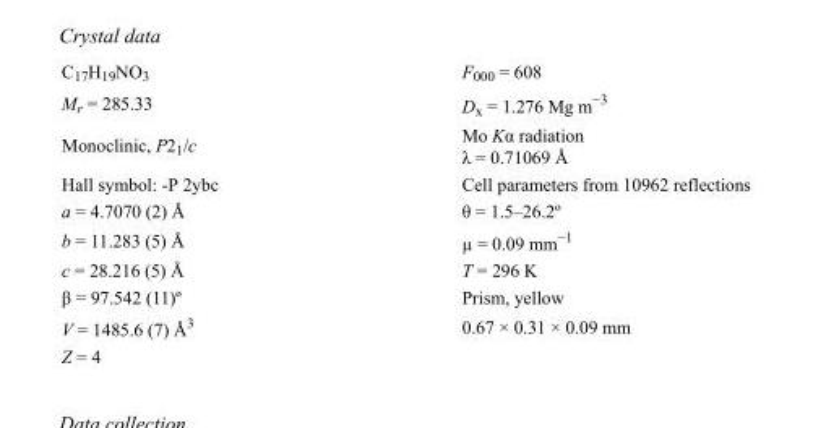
<table><tbody><tr><td>C<sub>17</sub>H<sub>19</sub>NO<sub>3</sub></td><td>F000 = 608</td></tr><tr><td>M<sub>r</sub> = 285.33</td><td>D<sub>x</sub> = 1.276 Mg m<sup>−3</sup></td></tr><tr><td>Monoclinic, P2<sub>1</sub>/c</td><td>Mo Kα radiation λ = 0.71069 Å</td></tr><tr><td>Hall symbol: -P 2ybc</td><td>Cell parameters from 10962 reflections</td></tr><tr><td>a = 4.7070 (2) Å</td><td>θ = 1.5–26.2º</td></tr><tr><td>b = 11.283 (5) Å</td><td>µ = 0.09 mm<sup>−1</sup></td></tr><tr><td>c = 28.216 (5) Å</td><td>T = 296 K</td></tr><tr><td>β = 97.542 (11)º</td><td>Prism, yellow</td></tr><tr><td>V = 1485.6 (7) Å<sup>3</sup></td><td>0.67 × 0.31 × 0.09 mm</td></tr><tr><td>Z = 4</td><td></td></tr></tbody></table>